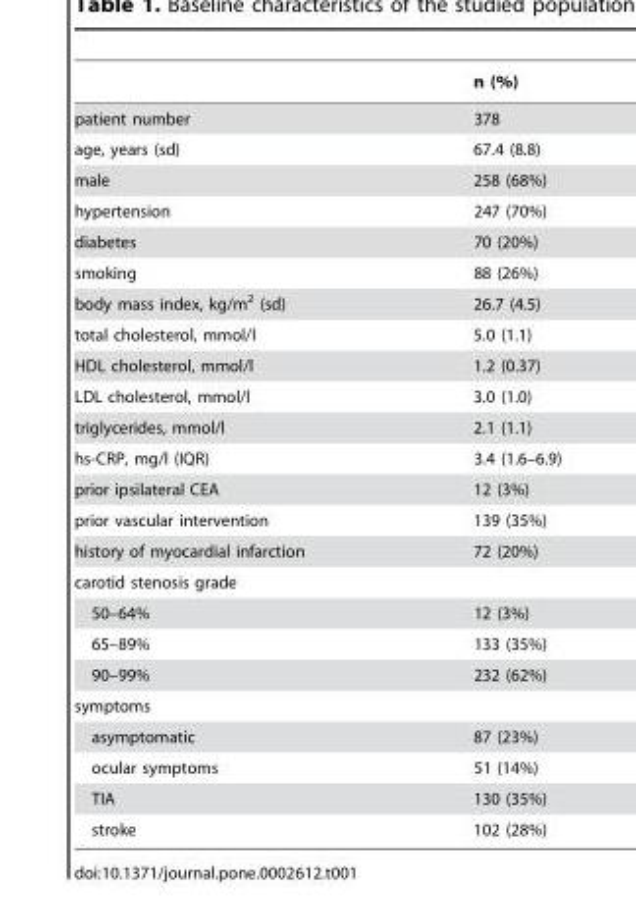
<table><thead><tr><td></td><td>n (%)</td></tr></thead><tbody><tr><td>patient number</td><td>378</td></tr><tr><td>age, years (sd)</td><td>67.4 (8.8)</td></tr><tr><td>male</td><td>258 (68%)</td></tr><tr><td>hypertension</td><td>247 (70%)</td></tr><tr><td>diabetes</td><td>70 (20%)</td></tr><tr><td>smoking</td><td>88 (26%)</td></tr><tr><td>body mass index, kg/m<sup>2</sup> (sd)</td><td>26.7 (4.5)</td></tr><tr><td>total cholesterol, mmol/l</td><td>5.0 (1.1)</td></tr><tr><td>HDL cholesterol, mmol/l</td><td>1.2 (0.37)</td></tr><tr><td>LDL cholesterol, mmol/l</td><td>3.0 (1.0)</td></tr><tr><td>triglycerides, mmol/l</td><td>2.1 (1.1)</td></tr><tr><td>hs-CRP, mg/l (IQR)</td><td>3.4 (1.6–6.9)</td></tr><tr><td>prior ipsilateral CEA</td><td>12 (3%)</td></tr><tr><td>prior vascular intervention</td><td>139 (35%)</td></tr><tr><td>history of myocardial infarction</td><td>72 (20%)</td></tr><tr><td colspan="2">carotid stenosis grade</td></tr><tr><td>50–64%</td><td>12 (3%)</td></tr><tr><td>65–89%</td><td>133 (35%)</td></tr><tr><td>90–99%</td><td>232 (62%)</td></tr><tr><td colspan="2">symptoms</td></tr><tr><td>asymptomatic</td><td>87 (23%)</td></tr><tr><td>ocular symptoms</td><td>51 (14%)</td></tr><tr><td>TIA</td><td>130 (35%)</td></tr><tr><td>stroke</td><td>102 (28%)</td></tr></tbody></table>